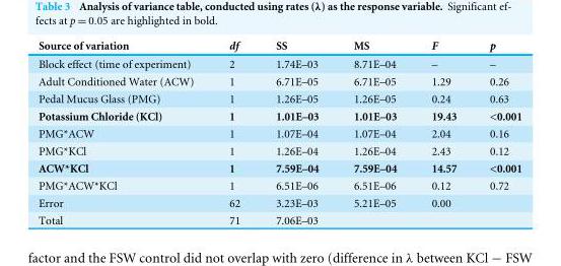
<table><thead><tr><td>Source of variation</td><td>df</td><td>SS</td><td>MS</td><td>F</td><td>p</td></tr></thead><tbody><tr><td>Block effect (time of experiment)</td><td>2</td><td>1.74E–03</td><td>8.71E–04</td><td>–</td><td>–</td></tr><tr><td>Adult Conditioned Water (ACW)</td><td>1</td><td>6.71E–05</td><td>6.71E–05</td><td>1.29</td><td>0.26</td></tr><tr><td>Pedal Mucus Glass (PMG)</td><td>1</td><td>1.26E–05</td><td>1.26E–05</td><td>0.24</td><td>0.63</td></tr><tr><td>Potassium Chloride (KCl)</td><td>1</td><td>1.01E–03</td><td>1.01E–03</td><td>19.43</td><td>&lt;0.001</td></tr><tr><td>PMG*ACW</td><td>1</td><td>1.07E–04</td><td>1.07E–04</td><td>2.04</td><td>0.16</td></tr><tr><td>PMG*KCl</td><td>1</td><td>1.26E–04</td><td>1.26E–04</td><td>2.43</td><td>0.12</td></tr><tr><td>ACW*KCl</td><td>1</td><td>7.59E–04</td><td>7.59E–04</td><td>14.57</td><td>&lt;0.001</td></tr><tr><td>PMG*ACW*KCl</td><td>1</td><td>6.51E–06</td><td>6.51E–06</td><td>0.12</td><td>0.72</td></tr><tr><td>Error</td><td>62</td><td>3.23E–03</td><td>5.21E–05</td><td>0.00</td><td></td></tr><tr><td>Total</td><td>71</td><td>7.06E–03</td><td></td><td></td><td></td></tr></tbody></table>